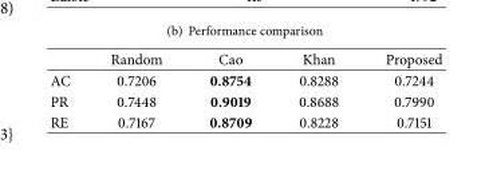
<table><thead><tr><td></td><td>Random</td><td>Cao</td><td>Khan</td><td>Proposed</td></tr></thead><tbody><tr><td>AC</td><td>0.7206</td><td>0.8754</td><td>0.8288</td><td>0.7244</td></tr><tr><td>PR</td><td>0.7448</td><td>0.9019</td><td>0.8688</td><td>0.7990</td></tr><tr><td>RE</td><td>0.7167</td><td>0.8709</td><td>0.8228</td><td>0.7151</td></tr></tbody></table>